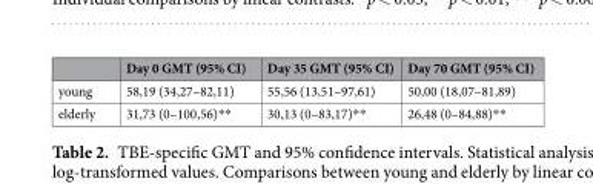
<table><thead><tr><td></td><td>Day 0 GMT (95% CI)</td><td>Day 35 GMT (95% CI)</td><td>Day 70 GMT (95% CI)</td></tr></thead><tbody><tr><td>young</td><td>58,19 (34,27–82,11)</td><td>55,56 (13,51–97,61)</td><td>50,00 (18,07–81,89)</td></tr><tr><td>elderly</td><td>31,73 (0–100,56)**</td><td>30,13 (0–83,17)**</td><td>26,48 (0–84,88)**</td></tr></tbody></table>